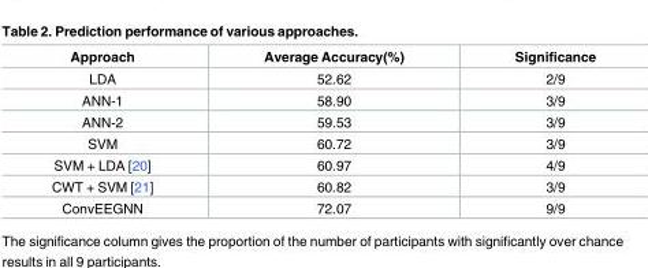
<table><thead><tr><td>Approach</td><td>Average Accuracy(%)</td><td>Significance</td></tr></thead><tbody><tr><td>LDA</td><td>52.62</td><td>2/9</td></tr><tr><td>ANN-1</td><td>58.90</td><td>3/9</td></tr><tr><td>ANN-2</td><td>59.53</td><td>3/9</td></tr><tr><td>SVM</td><td>60.72</td><td>3/9</td></tr><tr><td>SVM + LDA [20]</td><td>60.97</td><td>4/9</td></tr><tr><td>CWT + SVM [21]</td><td>60.82</td><td>3/9</td></tr><tr><td>ConvEEGNN</td><td>72.07</td><td>9/9</td></tr></tbody></table>